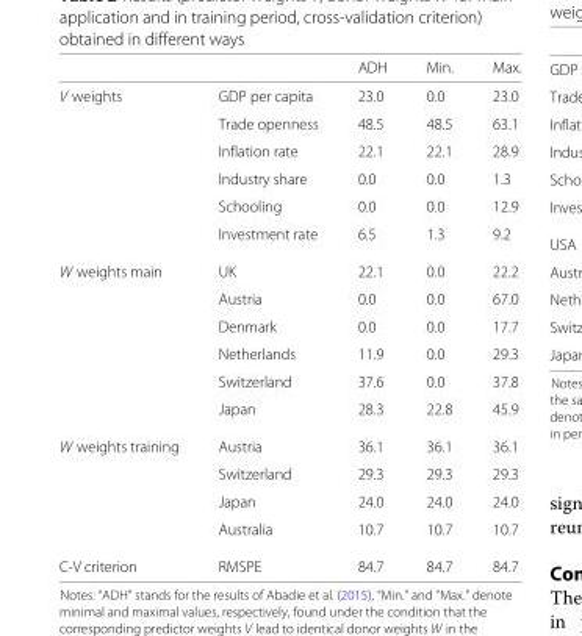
<table><thead><tr><td></td><td></td><td>ADH</td><td>Min.</td><td>Max.</td></tr></thead><tbody><tr><td rowspan="6">V weights</td><td>GDP per capita</td><td>23.0</td><td>0.0</td><td>23.0</td></tr><tr><td>Trade openness</td><td>48.5</td><td>48.5</td><td>63.1</td></tr><tr><td>Inflation rate</td><td>22.1</td><td>22.1</td><td>28.9</td></tr><tr><td>Industry share</td><td>0.0</td><td>0.0</td><td>1.3</td></tr><tr><td>Schooling</td><td>0.0</td><td>0.0</td><td>12.9</td></tr><tr><td>Investment rate</td><td>6.5</td><td>1.3</td><td>9.2</td></tr><tr><td rowspan="6">W weights main</td><td>UK</td><td>22.1</td><td>0.0</td><td>22.2</td></tr><tr><td>Austria</td><td>0.0</td><td>0.0</td><td>67.0</td></tr><tr><td>Denmark</td><td>0.0</td><td>0.0</td><td>17.7</td></tr><tr><td>Netherlands</td><td>11.9</td><td>0.0</td><td>29.3</td></tr><tr><td>Switzerland</td><td>37.6</td><td>0.0</td><td>37.8</td></tr><tr><td>Japan</td><td>28.3</td><td>22.8</td><td>45.9</td></tr><tr><td rowspan="4">W weights training</td><td>Austria</td><td>36.1</td><td>36.1</td><td>36.1</td></tr><tr><td>Switzerland</td><td>29.3</td><td>29.3</td><td>29.3</td></tr><tr><td>Japan</td><td>24.0</td><td>24.0</td><td>24.0</td></tr><tr><td>Australia</td><td>10.7</td><td>10.7</td><td>10.7</td></tr><tr><td>C-V criterion</td><td>RMSPE</td><td>84.7</td><td>84.7</td><td>84.7</td></tr></tbody></table>